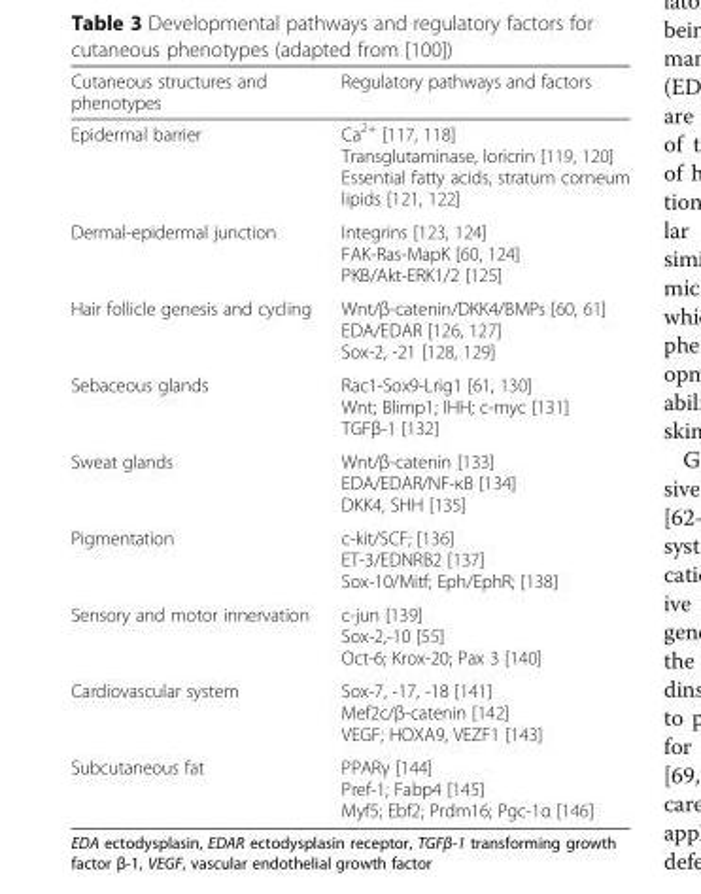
<table><thead><tr><td>Cutaneous structures and phenotypes</td><td>Regulatory pathways and factors</td></tr></thead><tbody><tr><td>Epidermal barrier</td><td>Ca<sup>2+</sup> [117, 118] Transglutaminase, loricrin [119, 120] Essential fatty acids, stratum corneum lipids [121, 122]</td></tr><tr><td>Dermal-epidermal junction</td><td>Integrins [123, 124] FAK-Ras-MapK [60, 124] PKB/Akt-ERK1/2 [125]</td></tr><tr><td>Hair follicle genesis and cycling</td><td>Wnt/β-catenin/DKK4/BMPs [60, 61] EDA/EDAR [126, 127] Sox-2, -21 [128, 129]</td></tr><tr><td>Sebaceous glands</td><td>Rac1-Sox9-Lrig1 [61, 130] Wnt; Blimp1; IHH; c-myc [131] TGFβ-1 [132]</td></tr><tr><td>Sweat glands</td><td>Wnt/β-catenin [133] EDA/EDAR/NF-κB [134] DKK4, SHH [135]</td></tr><tr><td>Pigmentation</td><td>c-kit/SCF; [136] ET-3/EDNRB2 [137] Sox-10/Mitf; Eph/EphR; [138]</td></tr><tr><td>Sensory and motor innervation</td><td>c-jun [139] Sox-2,-10 [55] Oct-6; Krox-20; Pax 3 [140]</td></tr><tr><td>Cardiovascular system</td><td>Sox-7, -17, -18 [141] Mef2c/β-catenin [142] VEGF; HOXA9, VEZF1 [143]</td></tr><tr><td>Subcutaneous fat</td><td>PPARγ [144] Pref-1; Fabp4 [145] Myf5; Ebf2; Prdm16; Pgc-1α [146]</td></tr></tbody></table>